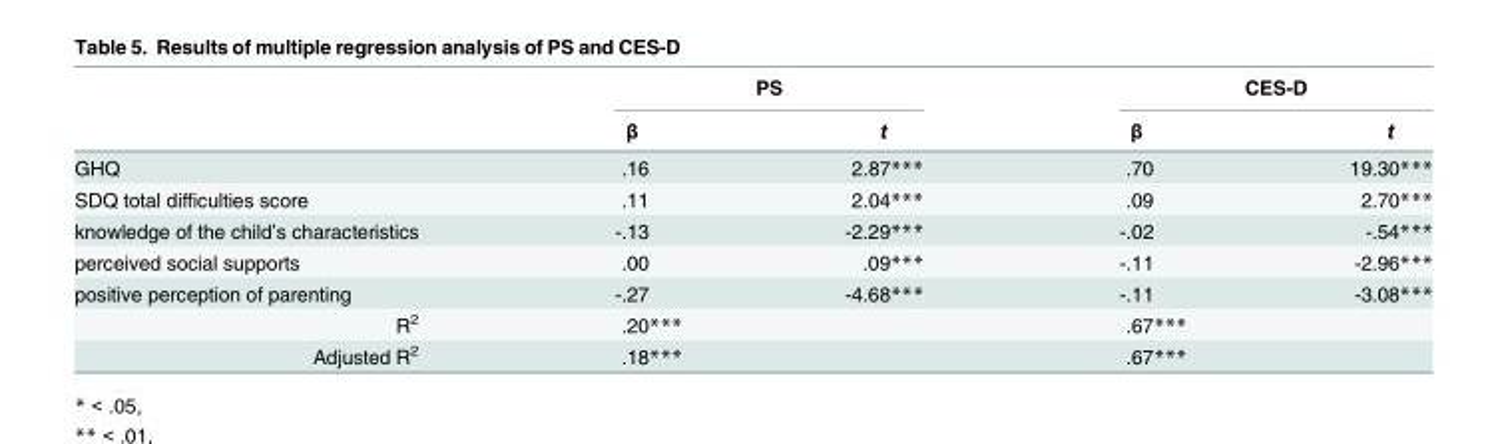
<table><thead><tr><td rowspan="2"></td><td colspan="2">PS</td><td colspan="2">CES-D</td></tr><tr><td>β</td><td>t</td><td>β</td><td>t</td></tr></thead><tbody><tr><td>GHQ</td><td>.16</td><td>2.87***</td><td>.70</td><td>19.30***</td></tr><tr><td>SDQ total difficulties score</td><td>.11</td><td>2.04***</td><td>.09</td><td>2.70***</td></tr><tr><td>knowledge of the child’s characteristics</td><td>-.13</td><td>-2.29***</td><td>-.02</td><td>-.54***</td></tr><tr><td>perceived social supports</td><td>.00</td><td>.09***</td><td>-.11</td><td>-2.96***</td></tr><tr><td>positive perception of parenting</td><td>-.27</td><td>-4.68***</td><td>-.11</td><td>-3.08***</td></tr><tr><td>R<sup>2</sup></td><td colspan="2">.20***</td><td colspan="2">.67***</td></tr><tr><td>Adjusted R<sup>2</sup></td><td colspan="2">.18***</td><td colspan="2">.67***</td></tr></tbody></table>